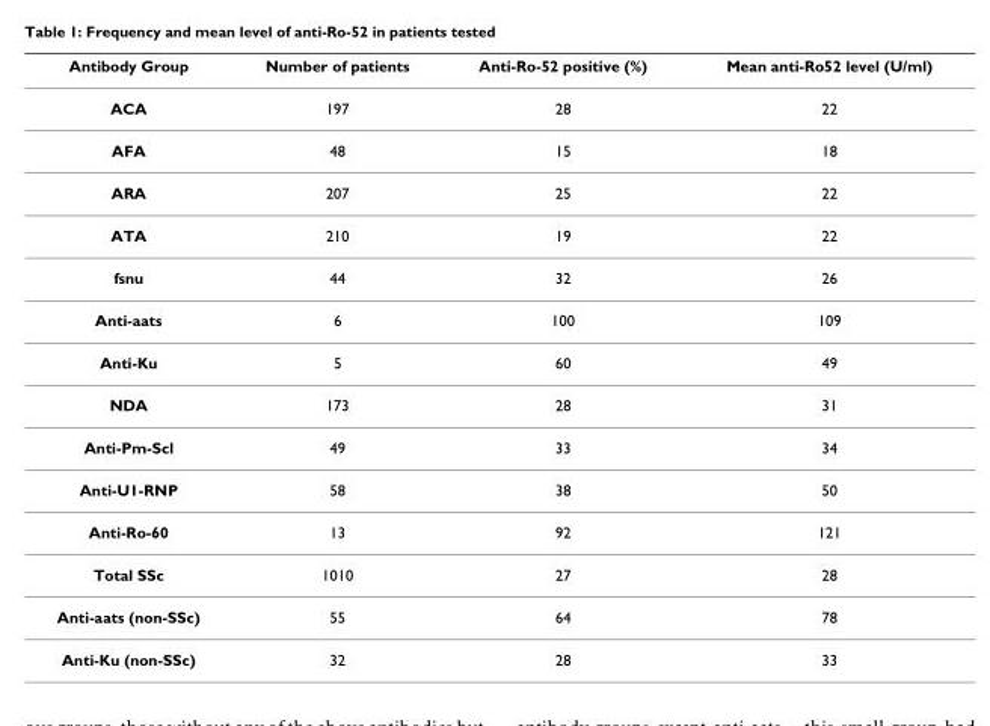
<table><thead><tr><td>Antibody Group</td><td>Number of patients</td><td>Anti-Ro-52 positive (%)</td><td>Mean anti-Ro52 level (U/ml)</td></tr></thead><tbody><tr><td>ACA</td><td>197</td><td>28</td><td>22</td></tr><tr><td>AFA</td><td>48</td><td>15</td><td>18</td></tr><tr><td>ARA</td><td>207</td><td>25</td><td>22</td></tr><tr><td>ATA</td><td>210</td><td>19</td><td>22</td></tr><tr><td>fsnu</td><td>44</td><td>32</td><td>26</td></tr><tr><td>Anti-aats</td><td>6</td><td>100</td><td>109</td></tr><tr><td>Anti-Ku</td><td>5</td><td>60</td><td>49</td></tr><tr><td>NDA</td><td>173</td><td>28</td><td>31</td></tr><tr><td>Anti-Pm-Scl</td><td>49</td><td>33</td><td>34</td></tr><tr><td>Anti-U1-RNP</td><td>58</td><td>38</td><td>50</td></tr><tr><td>Anti-Ro-60</td><td>13</td><td>92</td><td>121</td></tr><tr><td>Total SSc</td><td>1010</td><td>27</td><td>28</td></tr><tr><td>Anti-aats (non-SSc)</td><td>55</td><td>64</td><td>78</td></tr><tr><td>Anti-Ku (non-SSc)</td><td>32</td><td>28</td><td>33</td></tr></tbody></table>